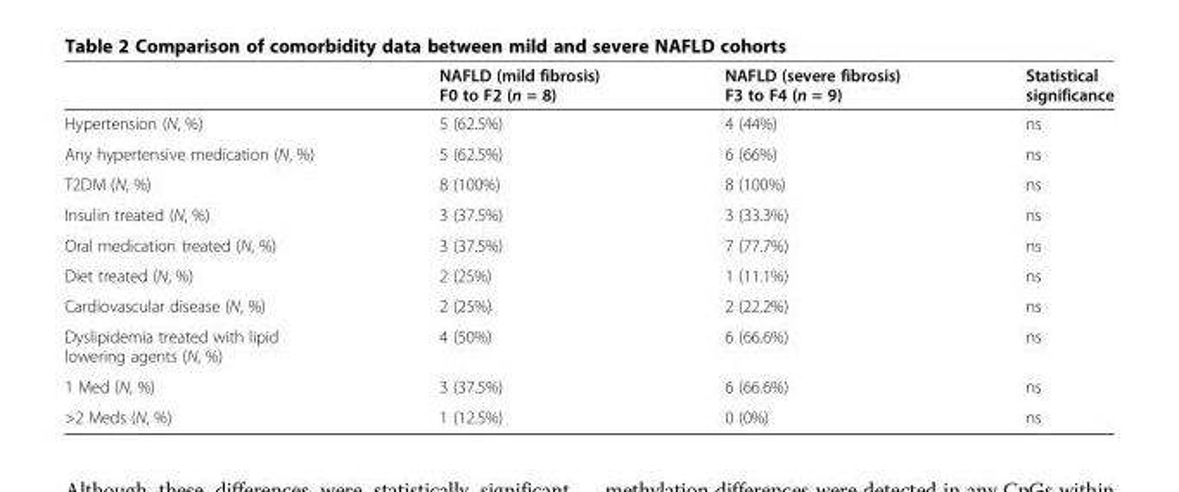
<table><thead><tr><td></td><td>NAFLD (mild fibrosis) F0 to F2 (n = 8)</td><td>NAFLD (severe fibrosis) F3 to F4 (n = 9)</td><td>Statistical significance</td></tr></thead><tbody><tr><td>Hypertension (N, %)</td><td>5 (62.5%)</td><td>4 (44%)</td><td>ns</td></tr><tr><td>Any hypertensive medication (N, %)</td><td>5 (62.5%)</td><td>6 (66%)</td><td>ns</td></tr><tr><td>T2DM (N, %)</td><td>8 (100%)</td><td>8 (100%)</td><td>ns</td></tr><tr><td>Insulin treated (N, %)</td><td>3 (37.5%)</td><td>3 (33.3%)</td><td>ns</td></tr><tr><td>Oral medication treated (N, %)</td><td>3 (37.5%)</td><td>7 (77.7%)</td><td>ns</td></tr><tr><td>Diet treated (N, %)</td><td>2 (25%)</td><td>1 (11.1%)</td><td>ns</td></tr><tr><td>Cardiovascular disease (N, %)</td><td>2 (25%)</td><td>2 (22.2%)</td><td>ns</td></tr><tr><td>Dyslipidemia treated with lipid lowering agents (N, %)</td><td>4 (50%)</td><td>6 (66.6%)</td><td>ns</td></tr><tr><td>1 Med (N, %)</td><td>3 (37.5%)</td><td>6 (66.6%)</td><td>ns</td></tr><tr><td>&gt;2 Meds (N, %)</td><td>1 (12.5%)</td><td>0 (0%)</td><td>ns</td></tr></tbody></table>